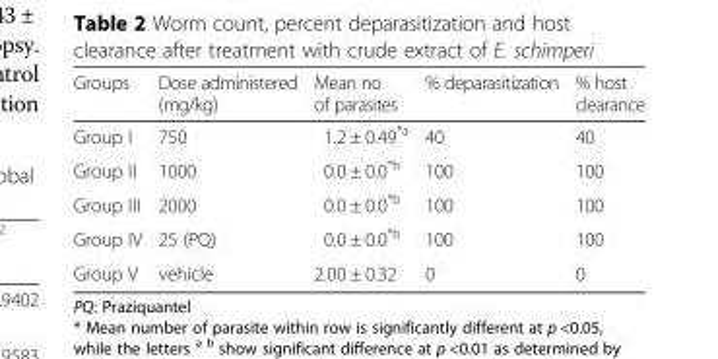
<table><thead><tr><td>Groups</td><td>Dose administered (mg/kg)</td><td>Mean no of parasites</td><td>% deparasitization</td><td>% host clearance</td></tr></thead><tbody><tr><td>Group I</td><td>750</td><td>1.2 ± 0.49<sup>*a</sup></td><td>40</td><td>40</td></tr><tr><td>Group II</td><td>1000</td><td>0.0 ± 0.0<sup>*b</sup></td><td>100</td><td>100</td></tr><tr><td>Group III</td><td>2000</td><td>0.0 ± 0.0<sup>*b</sup></td><td>100</td><td>100</td></tr><tr><td>Group IV</td><td>25 (PQ)</td><td>0.0 ± 0.0<sup>*b</sup></td><td>100</td><td>100</td></tr><tr><td>Group V</td><td>vehicle</td><td>2.00 ± 0.32</td><td>0</td><td>0</td></tr></tbody></table>